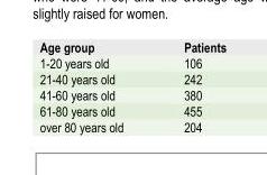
<table><thead><tr><td>Age group</td><td>Patients</td></tr></thead><tbody><tr><td>1-20 years old</td><td>106</td></tr><tr><td>21-40 years old</td><td>242</td></tr><tr><td>41-60 years old</td><td>380</td></tr><tr><td>61-80 years old</td><td>455</td></tr><tr><td>over 80 years old</td><td>204</td></tr></tbody></table>